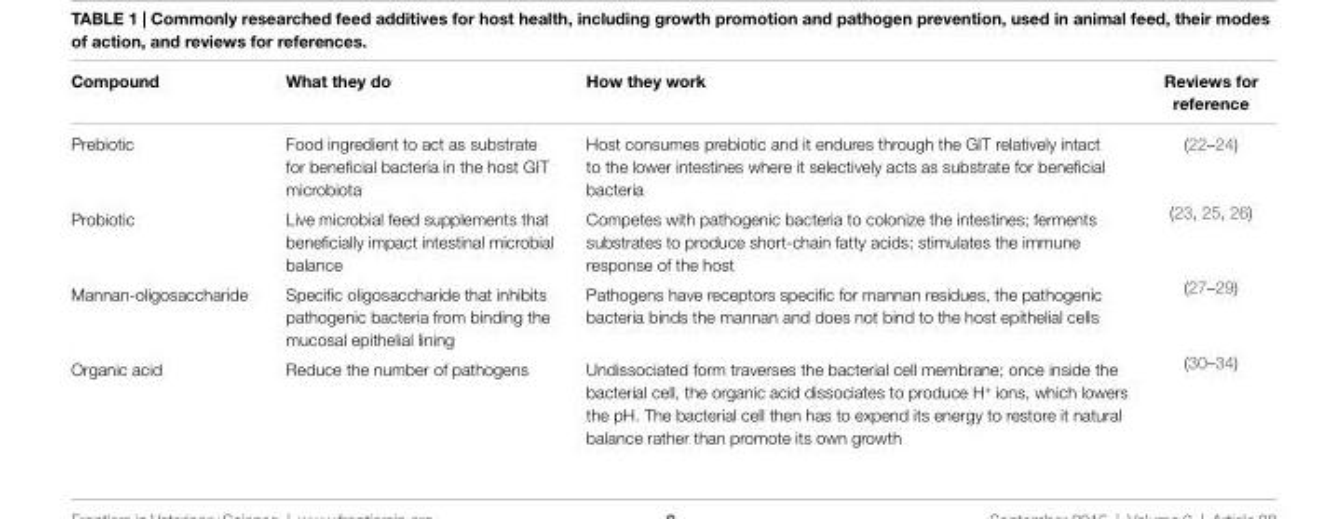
<table><thead><tr><td>Compound</td><td>what they do</td><td>How they work</td><td>Reviews for reference</td></tr></thead><tbody><tr><td>Prebiotic</td><td>Food ingredient to act as substrate for beneficial bacteria in the host GIT microbiota</td><td>Host consumes prebiotic and it endures through the GIT relatively intact to the lower intestines where it selectively acts as substrate for beneficial bacteria</td><td>(22–24)</td></tr><tr><td>Probiotic</td><td>Live microbial feed supplements that beneficially impact intestinal microbial balance</td><td>Competes with pathogenic bacteria to colonize the intestines; ferments substrates to produce short-chain fatty acids; stimulates the immune response of the host</td><td>(23, 25, 26)</td></tr><tr><td>Mannan-oligosaccharide</td><td>Specific oligosaccharide that inhibits pathogenic bacteria from binding the mucosal epithelial lining</td><td>Pathogens have receptors specific for mannan residues, the pathogenic bacteria binds the mannan and does not bind to the host epithelial cells</td><td>(27–29)</td></tr><tr><td>Organic acid</td><td>Reduce the number of pathogens</td><td>Undissociated form traverses the bacterial cell membrane; once inside the bacterial cell, the organic acid dissociates to produce H<sup>+</sup> ions, which lowers the pH. The bacterial cell then has to expend its energy to restore it natural balance rather than promote its own growth</td><td>(30–34)</td></tr></tbody></table>